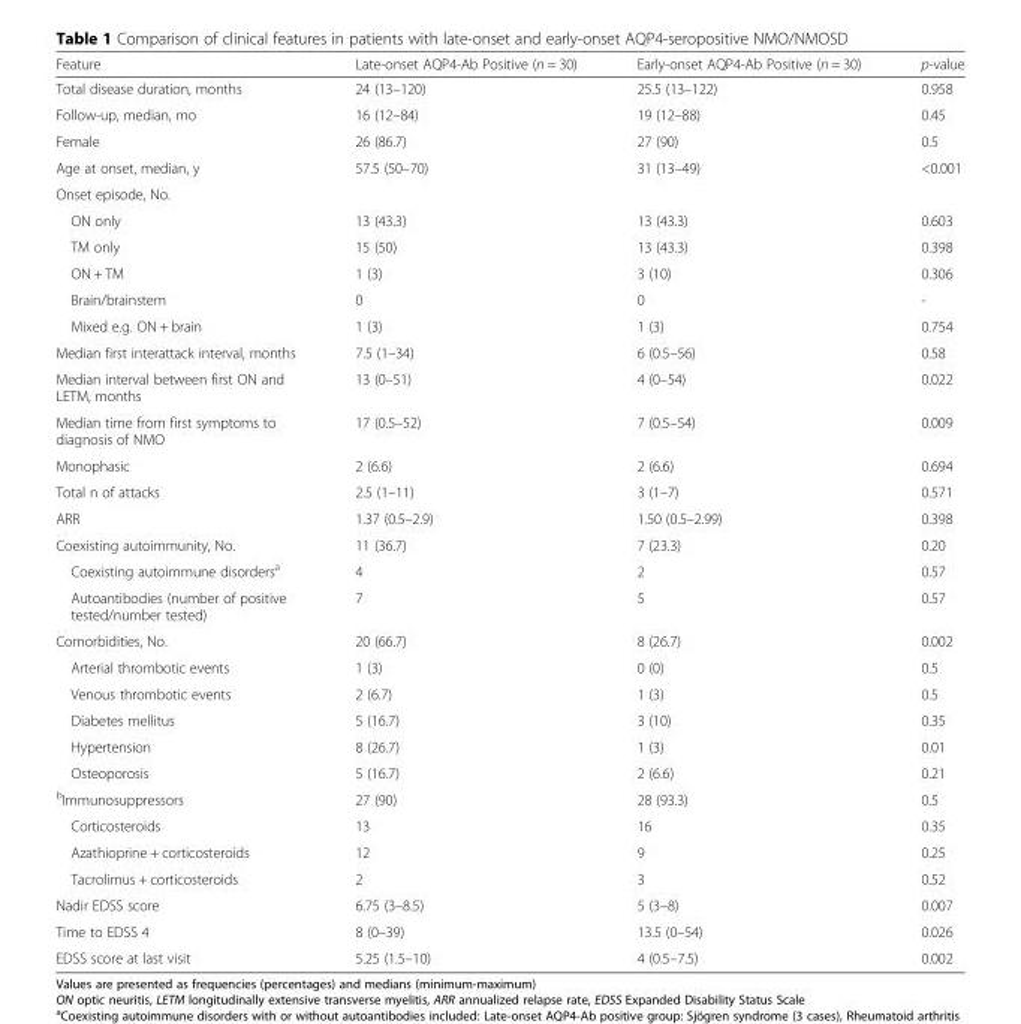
<table><thead><tr><td>Feature</td><td>Late-onset AQP4-Ab Positive (n = 30)</td><td>Early-onset AQP4-Ab Positive (n = 30)</td><td>p-value</td></tr></thead><tbody><tr><td>Total disease duration, months</td><td>24 (13–120)</td><td>25.5 (13–122)</td><td>0.958</td></tr><tr><td>Follow-up, median, mo</td><td>16 (12–84)</td><td>19 (12–88)</td><td>0.45</td></tr><tr><td>Female</td><td>26 (86.7)</td><td>27 (90)</td><td>0.5</td></tr><tr><td>Age at onset, median, y</td><td>57.5 (50–70)</td><td>31 (13–49)</td><td>&lt;0.001</td></tr><tr><td colspan="4">Onset episode, No.</td></tr><tr><td>ON only</td><td>13 (43.3)</td><td>13 (43.3)</td><td>0.603</td></tr><tr><td>TM only</td><td>15 (50)</td><td>13 (43.3)</td><td>0.398</td></tr><tr><td>ON + TM</td><td>1 (3)</td><td>3 (10)</td><td>0.306</td></tr><tr><td>Brain/brainstem</td><td>0</td><td>0</td><td>-</td></tr><tr><td>Mixed e.g. ON + brain</td><td>1 (3)</td><td>1 (3)</td><td>0.754</td></tr><tr><td>Median first interattack interval, months</td><td>7.5 (1–34)</td><td>6 (0.5–56)</td><td>0.58</td></tr><tr><td>Median interval between first ON and LETM, months</td><td>13 (0–51)</td><td>4 (0–54)</td><td>0.022</td></tr><tr><td>Median time from first symptoms to diagnosis of NMO</td><td>17 (0.5–52)</td><td>7 (0.5–54)</td><td>0.009</td></tr><tr><td>Monophasic</td><td>2 (6.6)</td><td>2 (6.6)</td><td>0.694</td></tr><tr><td>Total n of attacks</td><td>2.5 (1–11)</td><td>3 (1–7)</td><td>0.571</td></tr><tr><td>ARR</td><td>1.37 (0.5–2.9)</td><td>1.50 (0.5–2.99)</td><td>0.398</td></tr><tr><td>Coexisting autoimmunity, No.</td><td>11 (36.7)</td><td>7 (23.3)</td><td>0.20</td></tr><tr><td>Coexisting autoimmune disorders<sup>a</sup></td><td>4</td><td>2</td><td>0.57</td></tr><tr><td>Autoantibodies (number of positive tested/number tested)</td><td>7</td><td>5</td><td>0.57</td></tr><tr><td>Comorbidities, No.</td><td>20 (66.7)</td><td>8 (26.7)</td><td>0.002</td></tr><tr><td>Arterial thrombotic events</td><td>1 (3)</td><td>0 (0)</td><td>0.5</td></tr><tr><td>Venous thrombotic events</td><td>2 (6.7)</td><td>1 (3)</td><td>0.5</td></tr><tr><td>Diabetes mellitus</td><td>5 (16.7)</td><td>3 (10)</td><td>0.35</td></tr><tr><td>Hypertension</td><td>8 (26.7)</td><td>1 (3)</td><td>0.01</td></tr><tr><td>Osteoporosis</td><td>5 (16.7)</td><td>2 (6.6)</td><td>0.21</td></tr><tr><td><sup>b</sup>Immunosuppressors</td><td>27 (90)</td><td>28 (93.3)</td><td>0.5</td></tr><tr><td>Corticosteroids</td><td>13</td><td>16</td><td>0.35</td></tr><tr><td>Azathioprine + corticosteroids</td><td>12</td><td>9</td><td>0.25</td></tr><tr><td>Tacrolimus + corticosteroids</td><td>2</td><td>3</td><td>0.52</td></tr><tr><td>Nadir EDSS score</td><td>6.75 (3–8.5)</td><td>5 (3–8)</td><td>0.007</td></tr><tr><td>Time to EDSS 4</td><td>8 (0–39)</td><td>13.5 (0–54)</td><td>0.026</td></tr><tr><td>EDSS score at last visit</td><td>5.25 (1.5–10)</td><td>4 (0.5–7.5)</td><td>0.002</td></tr></tbody></table>